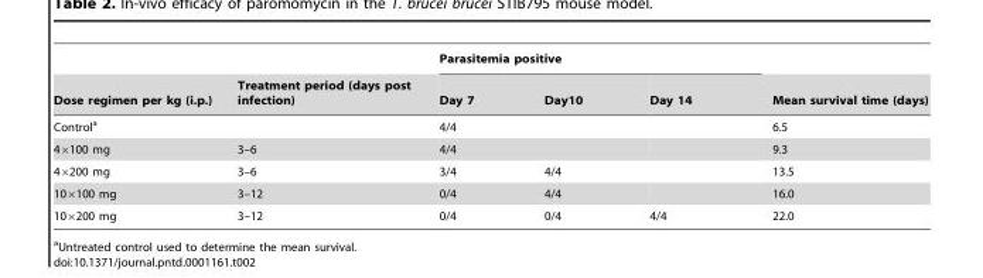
<table><thead><tr><td rowspan="2">Dose regimen per kg (i.p.)</td><td rowspan="2">Treatment period (days post infection)</td><td colspan="3">Parasitemia positive</td><td rowspan="2">Mean survival time (days)</td></tr><tr><td>Day 7</td><td>Day10</td><td>Day 14</td></tr></thead><tbody><tr><td>Control<sup>a</sup></td><td></td><td>4/4</td><td></td><td></td><td>6.5</td></tr><tr><td>4×100 mg</td><td>3–6</td><td>4/4</td><td></td><td></td><td>9.3</td></tr><tr><td>4×200 mg</td><td>3–6</td><td>3/4</td><td>4/4</td><td></td><td>13.5</td></tr><tr><td>10×100 mg</td><td>3–12</td><td>0/4</td><td>4/4</td><td></td><td>16.0</td></tr><tr><td>10×200 mg</td><td>3–12</td><td>0/4</td><td>0/4</td><td>4/4</td><td>22.0</td></tr></tbody></table>